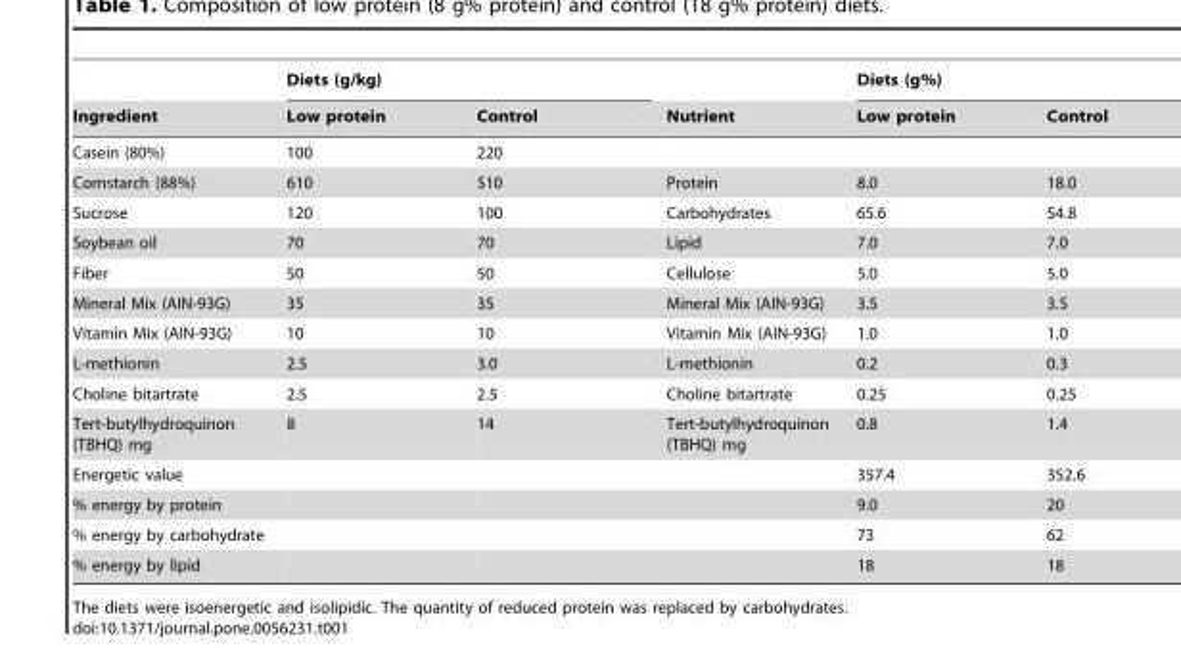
<table><thead><tr><td rowspan="2">Ingredient</td><td colspan="2">Diets (g/kg)</td><td rowspan="2">Nutrient</td><td colspan="2">Diets (g%)</td></tr><tr><td>Low protein</td><td>Control</td><td>Low protein</td><td>Control</td></tr></thead><tbody><tr><td>Casein (80%)</td><td>100</td><td>220</td><td></td><td></td><td></td></tr><tr><td>Cornstarch (88%)</td><td>610</td><td>510</td><td>Protein</td><td>8.0</td><td>18.0</td></tr><tr><td>Sucrose</td><td>120</td><td>100</td><td>Carbohydrates</td><td>65.6</td><td>54.8</td></tr><tr><td>Soybean oil</td><td>70</td><td>70</td><td>Lipid</td><td>7.0</td><td>7.0</td></tr><tr><td>Fiber</td><td>50</td><td>50</td><td>Cellulose</td><td>5.0</td><td>5.0</td></tr><tr><td>Mineral Mix (AIN-93G)</td><td>35</td><td>35</td><td>Mineral Mix (AIN-93G)</td><td>3.5</td><td>3.5</td></tr><tr><td>Vitamin Mix (AIN-93G)</td><td>10</td><td>10</td><td>Vitamin Mix (AIN-93G)</td><td>1.0</td><td>1.0</td></tr><tr><td>L-methionin</td><td>2.5</td><td>3.0</td><td>L-methionin</td><td>0.2</td><td>0.3</td></tr><tr><td>Choline bitartrate</td><td>2.5</td><td>2.5</td><td>Choline bitartrate</td><td>0.25</td><td>0.25</td></tr><tr><td>Tert-butylhydroquinon (TBHQ) mg</td><td>8</td><td>14</td><td>Tert-butylhydroquinon (TBHQ) mg</td><td>0.8</td><td>1.4</td></tr><tr><td>Energetic value</td><td></td><td></td><td></td><td>357.4</td><td>352.6</td></tr><tr><td>% energy by protein</td><td></td><td></td><td></td><td>9.0</td><td>20</td></tr><tr><td>% energy by carbohydrate</td><td></td><td></td><td></td><td>73</td><td>62</td></tr><tr><td>% energy by lipid</td><td></td><td></td><td></td><td>18</td><td>18</td></tr></tbody></table>